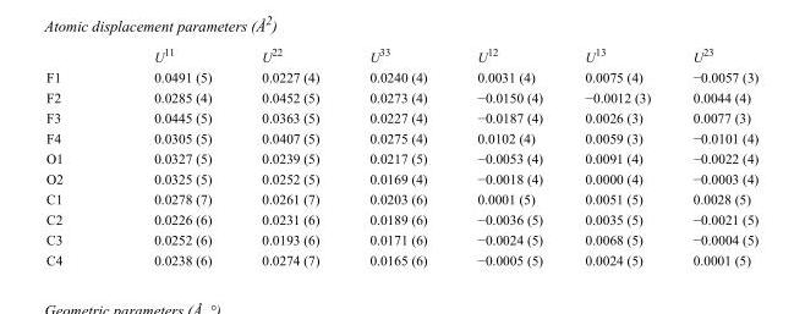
<table><thead><tr><td></td><td>U<sup>11</sup></td><td>U<sup>22</sup></td><td>U<sup>33</sup></td><td>U<sup>12</sup></td><td>U<sup>13</sup></td><td>U<sup>23</sup></td></tr></thead><tbody><tr><td>F1</td><td>0.0491 (5)</td><td>0.0227 (4)</td><td>0.0240 (4)</td><td>0.0031 (4)</td><td>0.0075 (4)</td><td>−0.0057 (3)</td></tr><tr><td>F2</td><td>0.0285 (4)</td><td>0.0452 (5)</td><td>0.0273 (4)</td><td>−0.0150 (4)</td><td>−0.0012 (3)</td><td>0.0044 (4)</td></tr><tr><td>F3</td><td>0.0445 (5)</td><td>0.0363 (5)</td><td>0.0227 (4)</td><td>−0.0187 (4)</td><td>0.0026 (3)</td><td>0.0077 (3)</td></tr><tr><td>F4</td><td>0.0305 (5)</td><td>0.0407 (5)</td><td>0.0275 (4)</td><td>0.0102 (4)</td><td>0.0059 (3)</td><td>−0.0101 (4)</td></tr><tr><td>O1</td><td>0.0327 (5)</td><td>0.0239 (5)</td><td>0.0217 (5)</td><td>−0.0053 (4)</td><td>0.0091 (4)</td><td>−0.0022 (4)</td></tr><tr><td>O2</td><td>0.0325 (5)</td><td>0.0252 (5)</td><td>0.0169 (4)</td><td>−0.0018 (4)</td><td>0.0000 (4)</td><td>−0.0003 (4)</td></tr><tr><td>C1</td><td>0.0278 (7)</td><td>0.0261 (7)</td><td>0.0203 (6)</td><td>0.0001 (5)</td><td>0.0051 (5)</td><td>0.0028 (5)</td></tr><tr><td>C2</td><td>0.0226 (6)</td><td>0.0231 (6)</td><td>0.0189 (6)</td><td>−0.0036 (5)</td><td>0.0035 (5)</td><td>−0.0021 (5)</td></tr><tr><td>C3</td><td>0.0252 (6)</td><td>0.0193 (6)</td><td>0.0171 (6)</td><td>−0.0024 (5)</td><td>0.0068 (5)</td><td>−0.0004 (5)</td></tr><tr><td>C4</td><td>0.0238 (6)</td><td>0.0274 (7)</td><td>0.0165 (6)</td><td>−0.0005 (5)</td><td>0.0024 (5)</td><td>0.0001 (5)</td></tr></tbody></table>